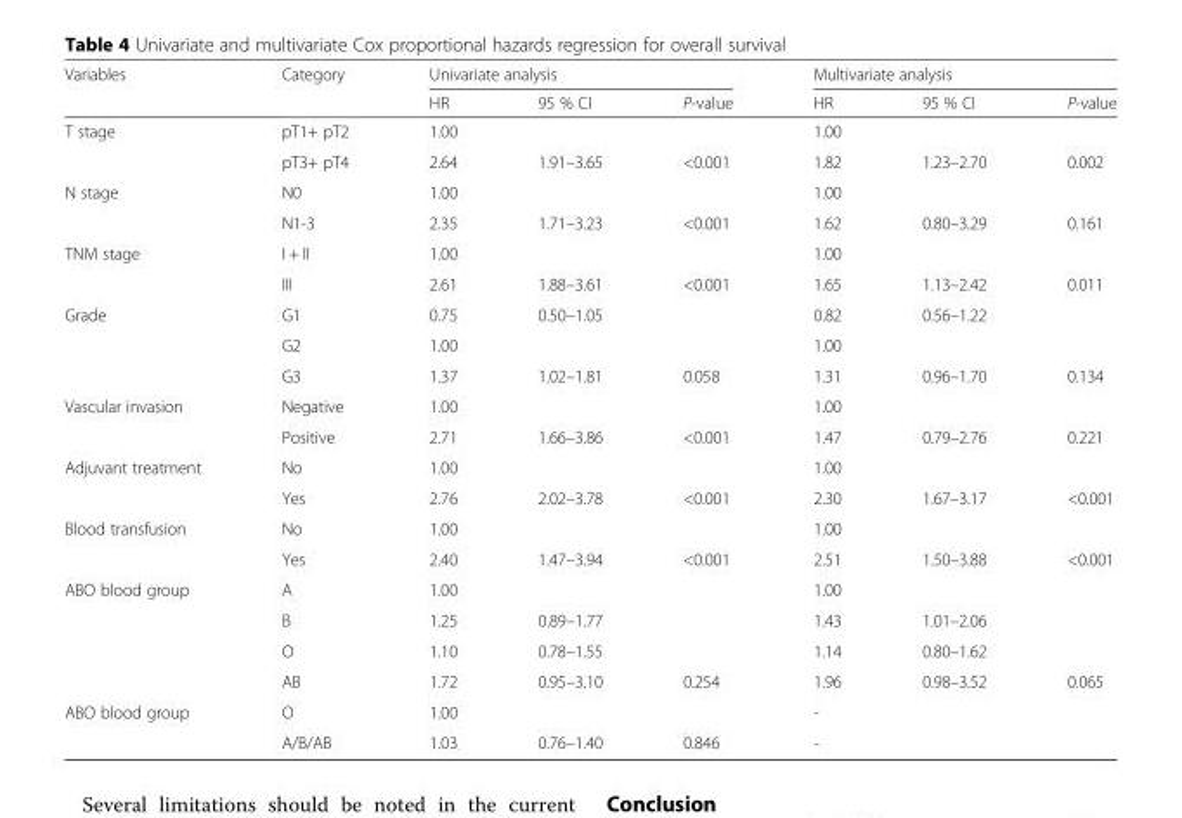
<table><thead><tr><td rowspan="2">Variables</td><td rowspan="2">Category</td><td colspan="3">Univariate analysis</td><td colspan="3">Multivariate analysis</td></tr><tr><td>HR</td><td>95 % CI</td><td>P-value</td><td>HR</td><td>95 % CI</td><td>P-value</td></tr></thead><tbody><tr><td rowspan="2">T stage</td><td>pT1+ pT2</td><td>1.00</td><td></td><td></td><td>1.00</td><td></td><td></td></tr><tr><td>pT3+ pT4</td><td>2.64</td><td>1.91–3.65</td><td>&lt;0.001</td><td>1.82</td><td>1.23–2.70</td><td>0.002</td></tr><tr><td rowspan="2">N stage</td><td>N0</td><td>1.00</td><td></td><td></td><td>1.00</td><td></td><td></td></tr><tr><td>N1-3</td><td>2.35</td><td>1.71–3.23</td><td>&lt;0.001</td><td>1.62</td><td>0.80–3.29</td><td>0.161</td></tr><tr><td rowspan="2">TNM stage</td><td>I + II</td><td>1.00</td><td></td><td></td><td>1.00</td><td></td><td></td></tr><tr><td>III</td><td>2.61</td><td>1.88–3.61</td><td>&lt;0.001</td><td>1.65</td><td>1.13–2.42</td><td>0.011</td></tr><tr><td rowspan="3">Grade</td><td>G1</td><td>0.75</td><td>0.50–1.05</td><td></td><td>0.82</td><td>0.56–1.22</td><td></td></tr><tr><td>G2</td><td>1.00</td><td></td><td></td><td>1.00</td><td></td><td></td></tr><tr><td>G3</td><td>1.37</td><td>1.02–1.81</td><td>0.058</td><td>1.31</td><td>0.96–1.70</td><td>0.134</td></tr><tr><td rowspan="2">Vascular invasion</td><td>Negative</td><td>1.00</td><td></td><td></td><td>1.00</td><td></td><td></td></tr><tr><td>Positive</td><td>2.71</td><td>1.66–3.86</td><td>&lt;0.001</td><td>1.47</td><td>0.79–2.76</td><td>0.221</td></tr><tr><td rowspan="2">Adjuvant treatment</td><td>No</td><td>1.00</td><td></td><td></td><td>1.00</td><td></td><td></td></tr><tr><td>Yes</td><td>2.76</td><td>2.02–3.78</td><td>&lt;0.001</td><td>2.30</td><td>1.67–3.17</td><td>&lt;0.001</td></tr><tr><td rowspan="2">Blood transfusion</td><td>No</td><td>1.00</td><td></td><td></td><td>1.00</td><td></td><td></td></tr><tr><td>Yes</td><td>2.40</td><td>1.47–3.94</td><td>&lt;0.001</td><td>2.51</td><td>1.50–3.88</td><td>&lt;0.001</td></tr><tr><td rowspan="4">ABO blood group</td><td>A</td><td>1.00</td><td></td><td></td><td>1.00</td><td></td><td></td></tr><tr><td>B</td><td>1.25</td><td>0.89–1.77</td><td></td><td>1.43</td><td>1.01–2.06</td><td></td></tr><tr><td>O</td><td>1.10</td><td>0.78–1.55</td><td></td><td>1.14</td><td>0.80–1.62</td><td></td></tr><tr><td>AB</td><td>1.72</td><td>0.95–3.10</td><td>0.254</td><td>1.96</td><td>0.98–3.52</td><td>0.065</td></tr><tr><td rowspan="2">ABO blood group</td><td>O</td><td>1.00</td><td></td><td></td><td>-</td><td></td><td></td></tr><tr><td>A/B/AB</td><td>1.03</td><td>0.76–1.40</td><td>0.846</td><td>-</td><td></td><td></td></tr></tbody></table>